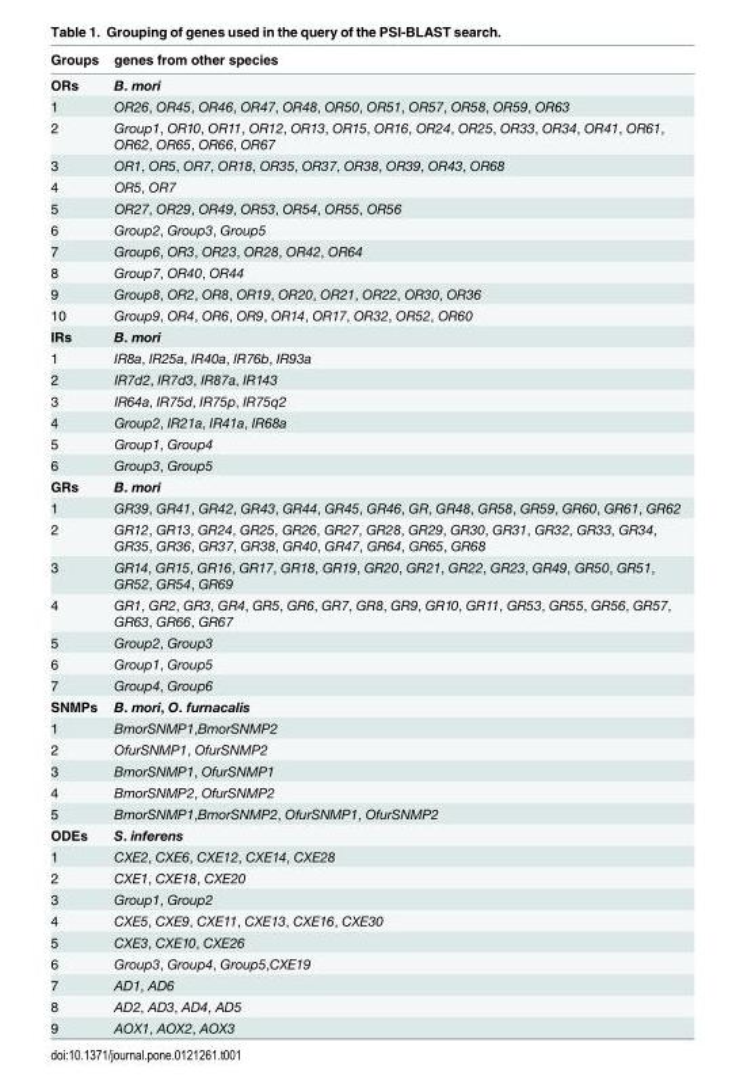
<table><thead><tr><td>Groups</td><td>genes from other species</td></tr></thead><tbody><tr><td>ORs</td><td>B. mori</td></tr><tr><td>1</td><td>OR26, OR45, OR46, OR47, OR48, OR50, OR51, OR57, OR58, OR59, OR63</td></tr><tr><td>2</td><td>Group1, OR10, OR11, OR12, OR13, OR15, OR16, OR24, OR25, OR33, OR34, OR41, OR61, OR62, OR65, OR66, OR67</td></tr><tr><td>3</td><td>OR1, OR5, OR7, OR18, OR35, OR37, OR38, OR39, OR43, OR68</td></tr><tr><td>4</td><td>OR5, OR7</td></tr><tr><td>5</td><td>OR27, OR29, OR49, OR53, OR54, OR55, OR56</td></tr><tr><td>6</td><td>Group2, Group3, Group5</td></tr><tr><td>7</td><td>Group6, OR3, OR23, OR28, OR42, OR64</td></tr><tr><td>8</td><td>Group7, OR40, OR44</td></tr><tr><td>9</td><td>Group8, OR2, OR8, OR19, OR20, OR21, OR22, OR30, OR36</td></tr><tr><td>10</td><td>Group9, OR4, OR6, OR9, OR14, OR17, OR32, OR52, OR60</td></tr><tr><td>IRs</td><td>B. mori</td></tr><tr><td>1</td><td>IR8a, IR25a, IR40a, IR76b, IR93a</td></tr><tr><td>2</td><td>IR7d2, IR7d3, IR87a, IR143</td></tr><tr><td>3</td><td>IR64a, IR75d, IR75p, IR75q2</td></tr><tr><td>4</td><td>Group2, IR21a, IR41a, IR68a</td></tr><tr><td>5</td><td>Group1, Group4</td></tr><tr><td>6</td><td>Group3, Group5</td></tr><tr><td>GRs</td><td>B. mori</td></tr><tr><td>1</td><td>GR39, GR41, GR42, GR43, GR44, GR45, GR46, GR, GR48, GR58, GR59, GR60, GR61, GR62</td></tr><tr><td>2</td><td>GR12, GR13, GR24, GR25, GR26, GR27, GR28, GR29, GR30, GR31, GR32, GR33, GR34, GR35, GR36, GR37, GR38, GR40, GR47, GR64, GR65, GR68</td></tr><tr><td>3</td><td>GR14, GR15, GR16, GR17, GR18, GR19, GR20, GR21, GR22, GR23, GR49, GR50, GR51, GR52, GR54, GR69</td></tr><tr><td>4</td><td>GR1, GR2, GR3, GR4, GR5, GR6, GR7, GR8, GR9, GR10, GR11, GR53, GR55, GR56, GR57, GR63, GR66, GR67</td></tr><tr><td>5</td><td>Group2, Group3</td></tr><tr><td>6</td><td>Group1, Group5</td></tr><tr><td>7</td><td>Group4, Group6</td></tr><tr><td>SNMPs</td><td>B. mori, O. furnacalis</td></tr><tr><td>1</td><td>BmorSNMP1,BmorSNMP2</td></tr><tr><td>2</td><td>OfurSNMP1, OfurSNMP2</td></tr><tr><td>3</td><td>BmorSNMP1, OfurSNMP1</td></tr><tr><td>4</td><td>BmorSNMP2, OfurSNMP2</td></tr><tr><td>5</td><td>BmorSNMP1,BmorSNMP2, OfurSNMP1, OfurSNMP2</td></tr><tr><td>ODEs</td><td>S. inferens</td></tr><tr><td>1</td><td>CXE2, CXE6, CXE12, CXE14, CXE28</td></tr><tr><td>2</td><td>CXE1, CXE18, CXE20</td></tr><tr><td>3</td><td>Group1, Group2</td></tr><tr><td>4</td><td>CXE5, CXE9, CXE11, CXE13, CXE16, CXE30</td></tr><tr><td>5</td><td>CXE3, CXE10, CXE26</td></tr><tr><td>6</td><td>Group3, Group4, Group5,CXE19</td></tr><tr><td>7</td><td>AD1, AD6</td></tr><tr><td>8</td><td>AD2, AD3, AD4, AD5</td></tr><tr><td>9</td><td>AOX1, AOX2, AOX3</td></tr></tbody></table>